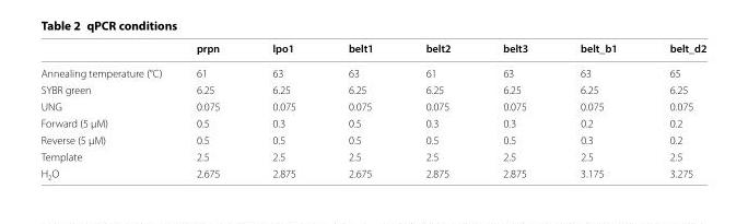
<table><thead><tr><td></td><td>prpn</td><td>lpo1</td><td>belt1</td><td>belt2</td><td>belt3</td><td>belt_b1</td><td>belt_d2</td></tr></thead><tbody><tr><td>Annealing temperature (°C)</td><td>61</td><td>63</td><td>63</td><td>61</td><td>63</td><td>63</td><td>65</td></tr><tr><td>SYBR green</td><td>6.25</td><td>6.25</td><td>6.25</td><td>6.25</td><td>6.25</td><td>6.25</td><td>6.25</td></tr><tr><td>UNG</td><td>0.075</td><td>0.075</td><td>0.075</td><td>0.075</td><td>0.075</td><td>0.075</td><td>0.075</td></tr><tr><td>Forward (5 µM)</td><td>0.5</td><td>0.3</td><td>0.5</td><td>0.3</td><td>0.3</td><td>0.2</td><td>0.2</td></tr><tr><td>Reverse (5 µM)</td><td>0.5</td><td>0.5</td><td>0.5</td><td>0.5</td><td>0.5</td><td>0.3</td><td>0.2</td></tr><tr><td>Template</td><td>2.5</td><td>2.5</td><td>2.5</td><td>2.5</td><td>2.5</td><td>2.5</td><td>2.5</td></tr><tr><td>H<sub>2</sub>O</td><td>2.675</td><td>2.875</td><td>2.675</td><td>2.875</td><td>2.875</td><td>3.175</td><td>3.275</td></tr></tbody></table>